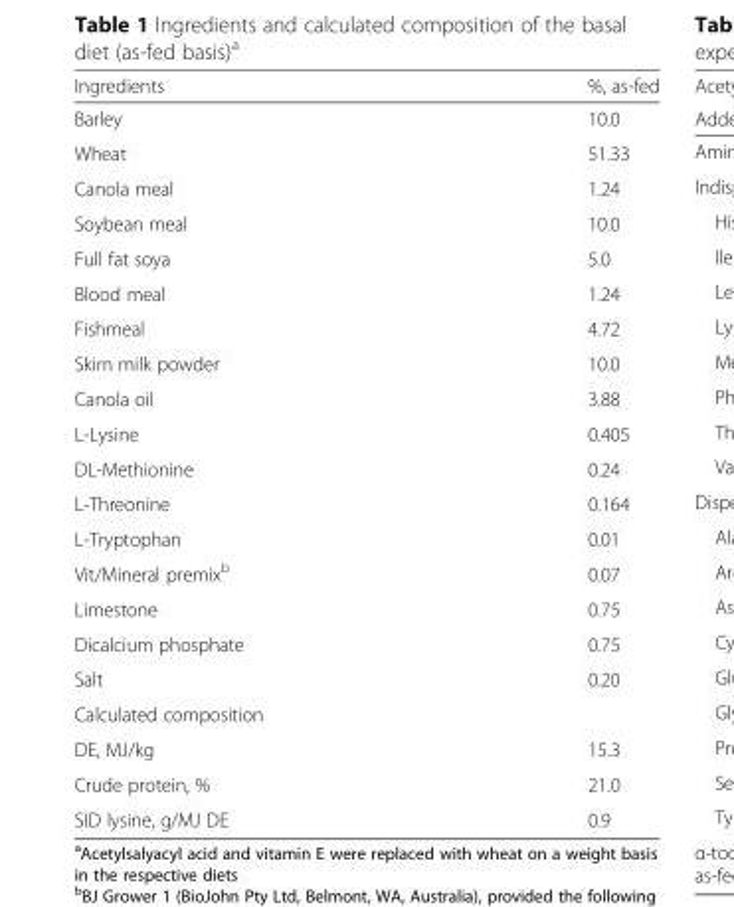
<table><thead><tr><td>Ingredients</td><td>%, as-fed</td></tr></thead><tbody><tr><td>Barley</td><td>10.0</td></tr><tr><td>Wheat</td><td>51.33</td></tr><tr><td>Canola meal</td><td>1.24</td></tr><tr><td>Soybean meal</td><td>10.0</td></tr><tr><td>Full fat soya</td><td>5.0</td></tr><tr><td>Blood meal</td><td>1.24</td></tr><tr><td>Fishmeal</td><td>4.72</td></tr><tr><td>Skim milk powder</td><td>10.0</td></tr><tr><td>Canola oil</td><td>3.88</td></tr><tr><td>L-Lysine</td><td>0.405</td></tr><tr><td>DL-Methionine</td><td>0.24</td></tr><tr><td>L-Threonine</td><td>0.164</td></tr><tr><td>L-Tryptophan</td><td>0.01</td></tr><tr><td>Vit/Mineral premix<sup>b</sup></td><td>0.07</td></tr><tr><td>Limestone</td><td>0.75</td></tr><tr><td>Dicalcium phosphate</td><td>0.75</td></tr><tr><td>Salt</td><td>0.20</td></tr><tr><td colspan="2">Calculated composition</td></tr><tr><td>DE, MJ/kg</td><td>15.3</td></tr><tr><td>Crude protein, %</td><td>21.0</td></tr><tr><td>SID lysine, g/MJ DE</td><td>0.9</td></tr></tbody></table>